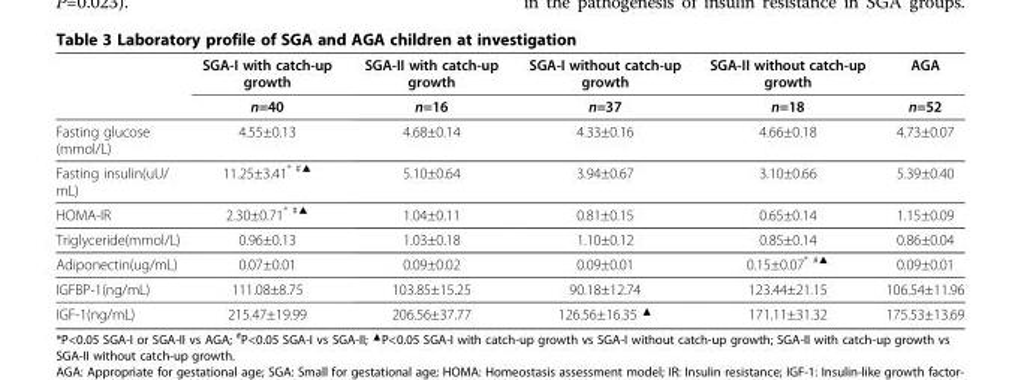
<table><thead><tr><td rowspan="2"></td><td rowspan="2">SGA-I with catch-up growth n=40</td><td rowspan="2">SGA-II with catch-up growth n=16</td><td rowspan="2">SGA-I without catch-up growth n=37</td><td rowspan="2">SGA-II without catch-up growth n=18</td><td rowspan="2">AGA n=52</td></tr><tr></tr></thead><tbody><tr><td>Fasting glucose (mmol/L)</td><td>4.55±0.13</td><td>4.68±0.14</td><td>4.33±0.16</td><td>4.66±0.18</td><td>4.73±0.07</td></tr><tr><td>Fasting insulin(uU/ mL)</td><td>11.25±3.41<sup>* #▲</sup></td><td>5.10±0.64</td><td>3.94±0.67</td><td>3.10±0.66</td><td>5.39±0.40</td></tr><tr><td>HOMA-IR</td><td>2.30±0.71<sup>* #▲</sup></td><td>1.04±0.11</td><td>0.81±0.15</td><td>0.65±0.14</td><td>1.15±0.09</td></tr><tr><td>Triglyceride(mmol/L)</td><td>0.96±0.13</td><td>1.03±0.18</td><td>1.10±0.12</td><td>0.85±0.14</td><td>0.86±0.04</td></tr><tr><td>Adiponectin(ug/mL)</td><td>0.07±0.01</td><td>0.09±0.02</td><td>0.09±0.01</td><td>0.15±0.07<sup>* #▲</sup></td><td>0.09±0.01</td></tr><tr><td>IGFBP-1(ng/mL)</td><td>111.08±8.75</td><td>103.85±15.25</td><td>90.18±12.74</td><td>123.44±21.15</td><td>106.54±11.96</td></tr><tr><td>IGF-1(ng/mL)</td><td>215.47±19.99</td><td>206.56±37.77</td><td>126.56±16.35 ▲</td><td>171.11±31.32</td><td>175.53±13.69</td></tr></tbody></table>